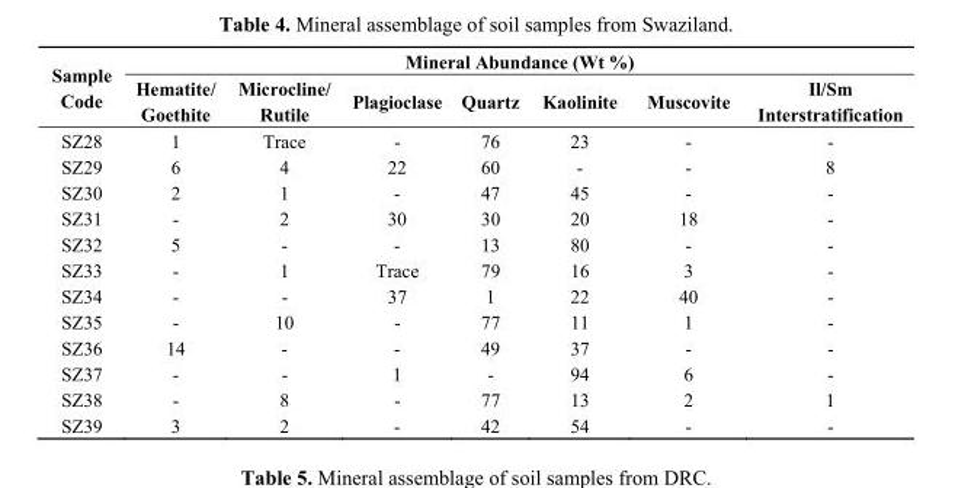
<table><thead><tr><td rowspan="2">Sample Code</td><td colspan="7">Mineral Abundance (Wt %)</td></tr><tr><td>Hematite/ Goethite</td><td>Microcline/ Rutile</td><td>Plagioclase</td><td>Quartz</td><td>Kaolinite</td><td>Muscovite</td><td>Il/Sm Interstratification</td></tr></thead><tbody><tr><td>SZ28</td><td>1</td><td>Trace</td><td>-</td><td>76</td><td>23</td><td>-</td><td>-</td></tr><tr><td>SZ29</td><td>6</td><td>4</td><td>22</td><td>60</td><td>-</td><td>-</td><td>8</td></tr><tr><td>SZ30</td><td>2</td><td>1</td><td>-</td><td>47</td><td>45</td><td>-</td><td>-</td></tr><tr><td>SZ31</td><td>-</td><td>2</td><td>30</td><td>30</td><td>20</td><td>18</td><td>-</td></tr><tr><td>SZ32</td><td>5</td><td>-</td><td>-</td><td>13</td><td>80</td><td>-</td><td>-</td></tr><tr><td>SZ33</td><td>-</td><td>1</td><td>Trace</td><td>79</td><td>16</td><td>3</td><td>-</td></tr><tr><td>SZ34</td><td>-</td><td>-</td><td>37</td><td>1</td><td>22</td><td>40</td><td>-</td></tr><tr><td>SZ35</td><td>-</td><td>10</td><td>-</td><td>77</td><td>11</td><td>1</td><td>-</td></tr><tr><td>SZ36</td><td>14</td><td>-</td><td>-</td><td>49</td><td>37</td><td>-</td><td>-</td></tr><tr><td>SZ37</td><td>-</td><td>-</td><td>1</td><td>-</td><td>94</td><td>6</td><td>-</td></tr><tr><td>SZ38</td><td>-</td><td>8</td><td>-</td><td>77</td><td>13</td><td>2</td><td>1</td></tr><tr><td>SZ39</td><td>3</td><td>2</td><td>-</td><td>42</td><td>54</td><td>-</td><td>-</td></tr></tbody></table>